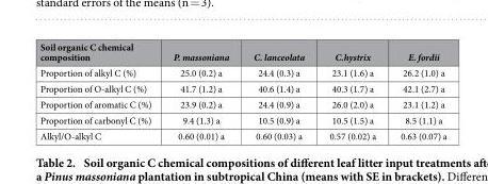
<table><thead><tr><td>Soil organic C chemical composition</td><td>P. massoniana</td><td>C. lanceolata</td><td>C.hystrix</td><td>E. fordii</td></tr></thead><tbody><tr><td>Proportion of alkyl C (%)</td><td>25.0 (0.2) a</td><td>24.4 (0.3) a</td><td>23.1 (1.6) a</td><td>26.2 (1.0) a</td></tr><tr><td>Proportion of O-alkyl C (%)</td><td>41.7 (1.2) a</td><td>40.6 (1.4) a</td><td>40.3 (1.7) a</td><td>42.1 (2.7) a</td></tr><tr><td>Proportion of aromatic C (%)</td><td>23.9 (0.2) a</td><td>24.4 (0.9) a</td><td>26.0 (2.0) a</td><td>23.1 (1.2) a</td></tr><tr><td>Proportion of carbonyl C (%)</td><td>9.4 (1.3) a</td><td>10.5 (0.9) a</td><td>10.5 (1.5) a</td><td>8.5 (1.1) a</td></tr><tr><td>Alkyl/O-alkyl C</td><td>0.60 (0.01) a</td><td>0.60 (0.03) a</td><td>0.57 (0.02) a</td><td>0.63 (0.07) a</td></tr></tbody></table>